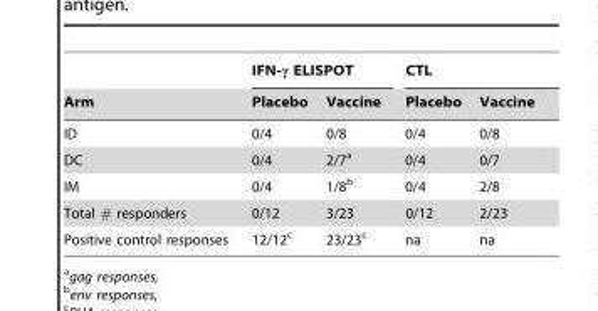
<table><thead><tr><td rowspan="2">Arm</td><td colspan="2">IFN-γ ELISPOT</td><td colspan="2">CTL</td></tr><tr><td>Placebo</td><td>Vaccine</td><td>Placebo</td><td>Vaccine</td></tr></thead><tbody><tr><td>ID</td><td>0/4</td><td>0/8</td><td>0/4</td><td>0/8</td></tr><tr><td>DC</td><td>0/4</td><td>2/7<sup>a</sup></td><td>0/4</td><td>0/7</td></tr><tr><td>IM</td><td>0/4</td><td>1/8<sup>b</sup></td><td>0/4</td><td>2/8</td></tr><tr><td>Total # responders</td><td>0/12</td><td>3/23</td><td>0/12</td><td>2/23</td></tr><tr><td>Positive control responses</td><td>12/12<sup>c</sup></td><td>23/23<sup>c</sup></td><td>na</td><td>na</td></tr></tbody></table>